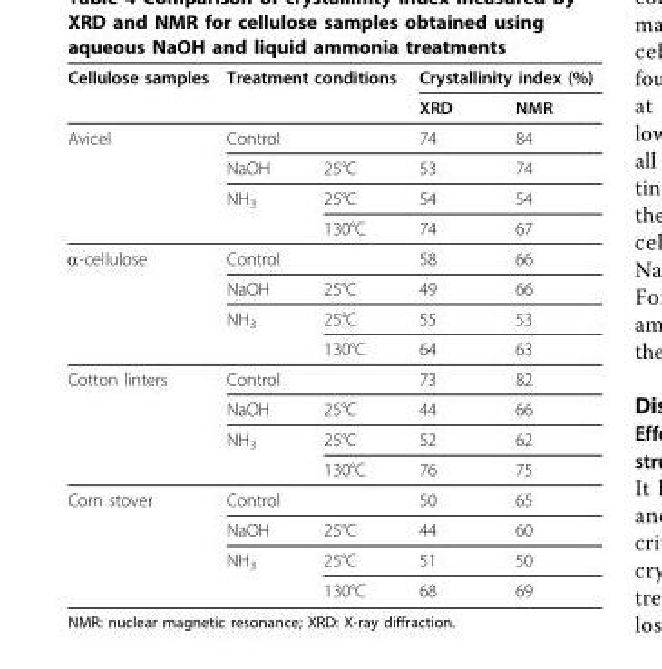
<table><thead><tr><td rowspan="2">Cellulose samples</td><td colspan="2">Treatment conditions</td><td colspan="2">Crystallinity index (%)</td></tr><tr><td></td><td></td><td>XRD</td><td>NMR</td></tr></thead><tbody><tr><td rowspan="4">Avicel</td><td colspan="2">Control</td><td>74</td><td>84</td></tr><tr><td>NaOH</td><td>25°C</td><td>53</td><td>74</td></tr><tr><td>NH<sub>3</sub></td><td>25°C</td><td>54</td><td>54</td></tr><tr><td></td><td>130°C</td><td>74</td><td>67</td></tr><tr><td rowspan="4">α-cellulose</td><td colspan="2">Control</td><td>58</td><td>66</td></tr><tr><td>NaOH</td><td>25°C</td><td>49</td><td>66</td></tr><tr><td>NH<sub>3</sub></td><td>25°C</td><td>55</td><td>53</td></tr><tr><td></td><td>130°C</td><td>64</td><td>63</td></tr><tr><td rowspan="4">Cotton linters</td><td colspan="2">Control</td><td>73</td><td>82</td></tr><tr><td>NaOH</td><td>25°C</td><td>44</td><td>66</td></tr><tr><td>NH<sub>3</sub></td><td>25°C</td><td>52</td><td>62</td></tr><tr><td></td><td>130°C</td><td>76</td><td>75</td></tr><tr><td rowspan="4">Corn stover</td><td colspan="2">Control</td><td>50</td><td>65</td></tr><tr><td>NaOH</td><td>25°C</td><td>44</td><td>60</td></tr><tr><td>NH<sub>3</sub></td><td>25°C</td><td>51</td><td>50</td></tr><tr><td></td><td>130°C</td><td>68</td><td>69</td></tr></tbody></table>